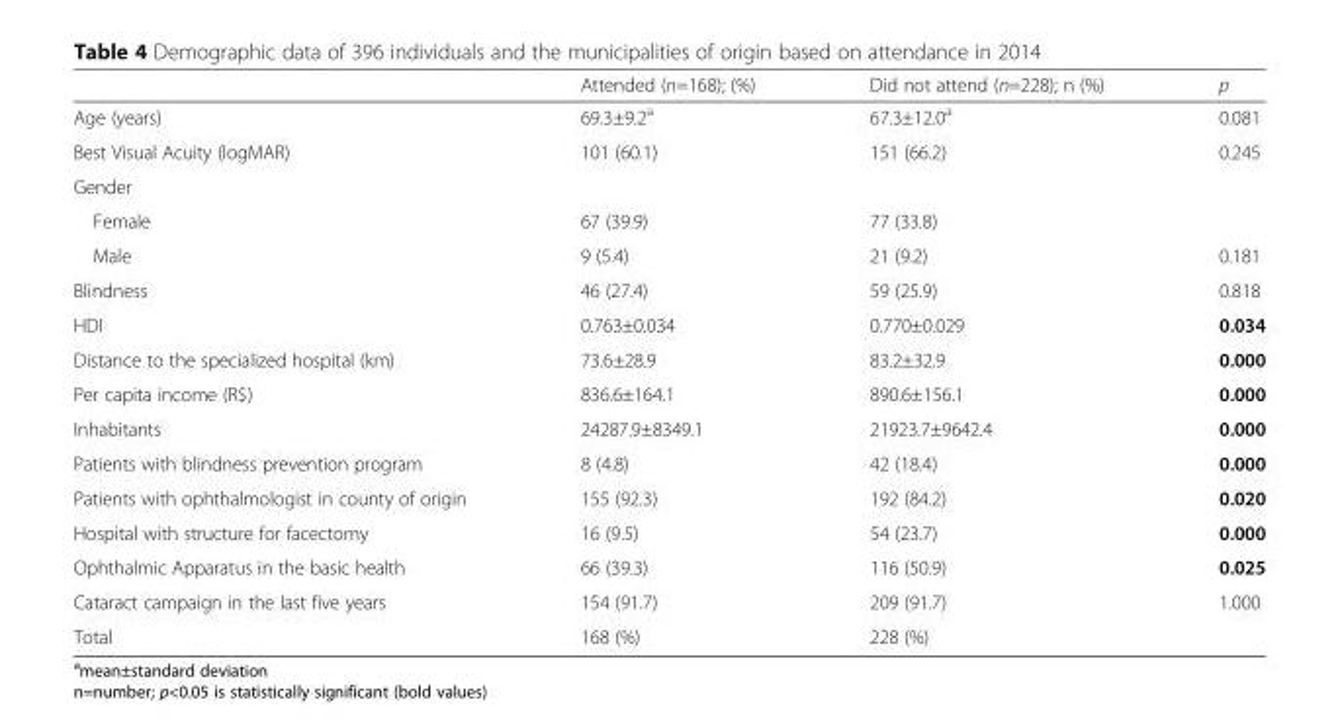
<table><thead><tr><td></td><td>Attended (n=168); (%)</td><td>Did not attend (n=228); n (%)</td><td>p</td></tr></thead><tbody><tr><td>Age (years)</td><td>69.3±9.2<sup>a</sup></td><td>67.3±12.0<sup>a</sup></td><td>0.081</td></tr><tr><td>Best Visual Acuity (logMAR)</td><td>101 (60.1)</td><td>151 (66.2)</td><td>0.245</td></tr><tr><td colspan="4">Gender</td></tr><tr><td>Female</td><td>67 (39.9)</td><td>77 (33.8)</td><td></td></tr><tr><td>Male</td><td>9 (5.4)</td><td>21 (9.2)</td><td>0.181</td></tr><tr><td>Blindness</td><td>46 (27.4)</td><td>59 (25.9)</td><td>0.818</td></tr><tr><td>HDI</td><td>0.763±0.034</td><td>0.770±0.029</td><td>0.034</td></tr><tr><td>Distance to the specialized hospital (km)</td><td>73.6±28.9</td><td>83.2±32.9</td><td>0.000</td></tr><tr><td>Per capita income (R$)</td><td>836.6±164.1</td><td>890.6±156.1</td><td>0.000</td></tr><tr><td>Inhabitants</td><td>24287.9±8349.1</td><td>21923.7±9642.4</td><td>0.000</td></tr><tr><td>Patients with blindness prevention program</td><td>8 (4.8)</td><td>42 (18.4)</td><td>0.000</td></tr><tr><td>Patients with ophthalmologist in county of origin</td><td>155 (92.3)</td><td>192 (84.2)</td><td>0.020</td></tr><tr><td>Hospital with structure for facectomy</td><td>16 (9.5)</td><td>54 (23.7)</td><td>0.000</td></tr><tr><td>Ophthalmic Apparatus in the basic health</td><td>66 (39.3)</td><td>116 (50.9)</td><td>0.025</td></tr><tr><td>Cataract campaign in the last five years</td><td>154 (91.7)</td><td>209 (91.7)</td><td>1.000</td></tr><tr><td>Total</td><td>168 (%)</td><td>228 (%)</td><td></td></tr></tbody></table>